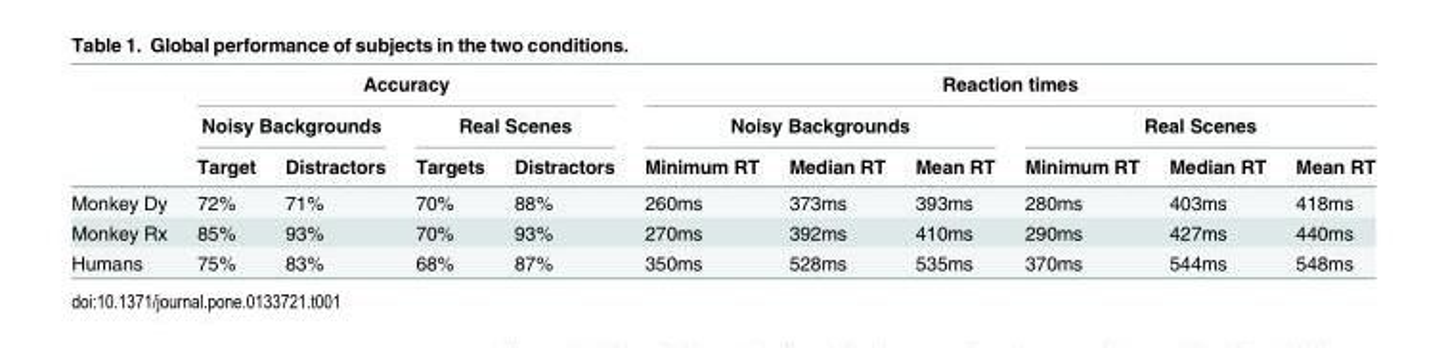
<table><thead><tr><td rowspan="3"></td><td colspan="4">Accuracy</td><td colspan="6">Reaction times</td></tr><tr><td colspan="2">Noisy Backgrounds</td><td colspan="2">Real Scenes</td><td colspan="3">Noisy Backgrounds</td><td colspan="3">Real Scenes</td></tr><tr><td>Target</td><td>Distractors</td><td>Targets</td><td>Distractors</td><td>Minimum RT</td><td>Median RT</td><td>Mean RT</td><td>Minimum RT</td><td>Median RT</td><td>Mean RT</td></tr></thead><tbody><tr><td>Monkey Dy</td><td>72%</td><td>71%</td><td>70%</td><td>88%</td><td>260ms</td><td>373ms</td><td>393ms</td><td>280ms</td><td>403ms</td><td>418ms</td></tr><tr><td>Monkey Rx</td><td>85%</td><td>93%</td><td>70%</td><td>93%</td><td>270ms</td><td>392ms</td><td>410ms</td><td>290ms</td><td>427ms</td><td>440ms</td></tr><tr><td>Humans</td><td>75%</td><td>83%</td><td>68%</td><td>87%</td><td>350ms</td><td>528ms</td><td>535ms</td><td>370ms</td><td>544ms</td><td>548ms</td></tr></tbody></table>